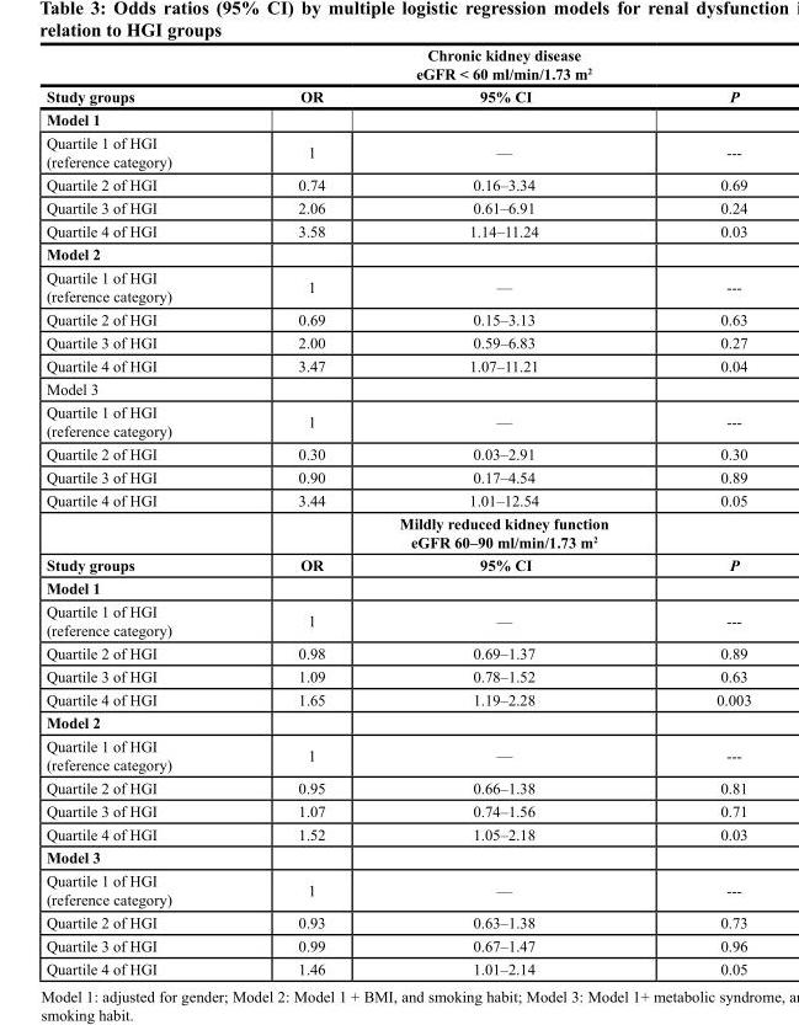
<table><thead><tr><td rowspan="2">Study groups</td><td rowspan="2">OR</td><td rowspan="2">Chronic kidney disease eGFR ˂ 60 ml/min/1.73 m2 95% CI</td><td rowspan="2">P</td></tr><tr></tr></thead><tbody><tr><td colspan="4">Model 1</td></tr><tr><td>Quartile 1 of HGI (reference category)</td><td>1</td><td>—</td><td>---</td></tr><tr><td>Quartile 2 of HGI</td><td>0.74</td><td>0.16–3.34</td><td>0.69</td></tr><tr><td>Quartile 3 of HGI</td><td>2.06</td><td>0.61–6.91</td><td>0.24</td></tr><tr><td>Quartile 4 of HGI</td><td>3.58</td><td>1.14–11.24</td><td>0.03</td></tr><tr><td colspan="4">Model 2</td></tr><tr><td>Quartile 1 of HGI (reference category)</td><td>1</td><td>—</td><td>---</td></tr><tr><td>Quartile 2 of HGI</td><td>0.69</td><td>0.15–3.13</td><td>0.63</td></tr><tr><td>Quartile 3 of HGI</td><td>2.00</td><td>0.59–6.83</td><td>0.27</td></tr><tr><td>Quartile 4 of HGI</td><td>3.47</td><td>1.07–11.21</td><td>0.04</td></tr><tr><td colspan="4">Model 3</td></tr><tr><td>Quartile 1 of HGI (reference category)</td><td>1</td><td>—</td><td>---</td></tr><tr><td>Quartile 2 of HGI</td><td>0.30</td><td>0.03–2.91</td><td>0.30</td></tr><tr><td>Quartile 3 of HGI</td><td>0.90</td><td>0.17–4.54</td><td>0.89</td></tr><tr><td rowspan="2">Quartile 4 of HGI</td><td>3.44</td><td>1.01–12.54</td><td>0.05</td></tr><tr><td></td><td>Mildly reduced kidney function eGFR 60–90 ml/min/1.73 m<sup>2</sup></td><td></td></tr><tr><td>Study groups</td><td>OR</td><td>95% CI</td><td>P</td></tr><tr><td colspan="4">Model 1</td></tr><tr><td>Quartile 1 of HGI (reference category)</td><td>1</td><td>—</td><td>---</td></tr><tr><td>Quartile 2 of HGI</td><td>0.98</td><td>0.69–1.37</td><td>0.89</td></tr><tr><td>Quartile 3 of HGI</td><td>1.09</td><td>0.78–1.52</td><td>0.63</td></tr><tr><td>Quartile 4 of HGI</td><td>1.65</td><td>1.19–2.28</td><td>0.003</td></tr><tr><td colspan="4">Model 2</td></tr><tr><td>Quartile 1 of HGI (reference category)</td><td>1</td><td>—</td><td>---</td></tr><tr><td>Quartile 2 of HGI</td><td>0.95</td><td>0.66–1.38</td><td>0.81</td></tr><tr><td>Quartile 3 of HGI</td><td>1.07</td><td>0.74–1.56</td><td>0.71</td></tr><tr><td>Quartile 4 of HGI</td><td>1.52</td><td>1.05–2.18</td><td>0.03</td></tr><tr><td colspan="4">Model 3</td></tr><tr><td>Quartile 1 of HGI (reference category)</td><td>1</td><td>—</td><td>---</td></tr><tr><td>Quartile 2 of HGI</td><td>0.93</td><td>0.63–1.38</td><td>0.73</td></tr><tr><td>Quartile 3 of HGI</td><td>0.99</td><td>0.67–1.47</td><td>0.96</td></tr><tr><td>Quartile 4 of HGI</td><td>1.46</td><td>1.01–2.14</td><td>0.05</td></tr></tbody></table>